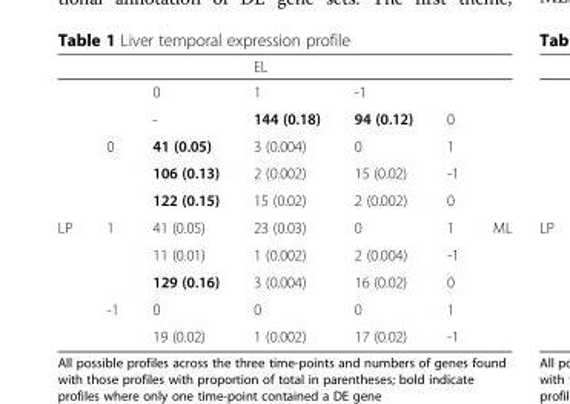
<table><thead><tr><td></td><td></td><td></td><td>EL</td><td></td><td></td><td></td></tr></thead><tbody><tr><td></td><td></td><td>0</td><td>1</td><td>-1</td><td></td><td></td></tr><tr><td></td><td></td><td>-</td><td>144 (0.18)</td><td>94 (0.12)</td><td>0</td><td></td></tr><tr><td></td><td>0</td><td>41 (0.05)</td><td>3 (0.004)</td><td>0</td><td>1</td><td></td></tr><tr><td></td><td></td><td>106 (0.13)</td><td>2 (0.002)</td><td>15 (0.02)</td><td>-1</td><td></td></tr><tr><td></td><td></td><td>122 (0.15)</td><td>15 (0.02)</td><td>2 (0.002)</td><td>0</td><td></td></tr><tr><td rowspan="5">LP</td><td>1</td><td>41 (0.05)</td><td>23 (0.03)</td><td>0</td><td>1</td><td>ML</td></tr><tr><td></td><td>11 (0.01)</td><td>1 (0.002)</td><td>2 (0.004)</td><td>-1</td><td></td></tr><tr><td></td><td>129 (0.16)</td><td>3 (0.004)</td><td>16 (0.02)</td><td>0</td><td></td></tr><tr><td>-1</td><td>0</td><td>0</td><td>0</td><td>1</td><td></td></tr><tr><td></td><td>19 (0.02)</td><td>1 (0.002)</td><td>17 (0.02)</td><td>-1</td><td></td></tr></tbody></table>